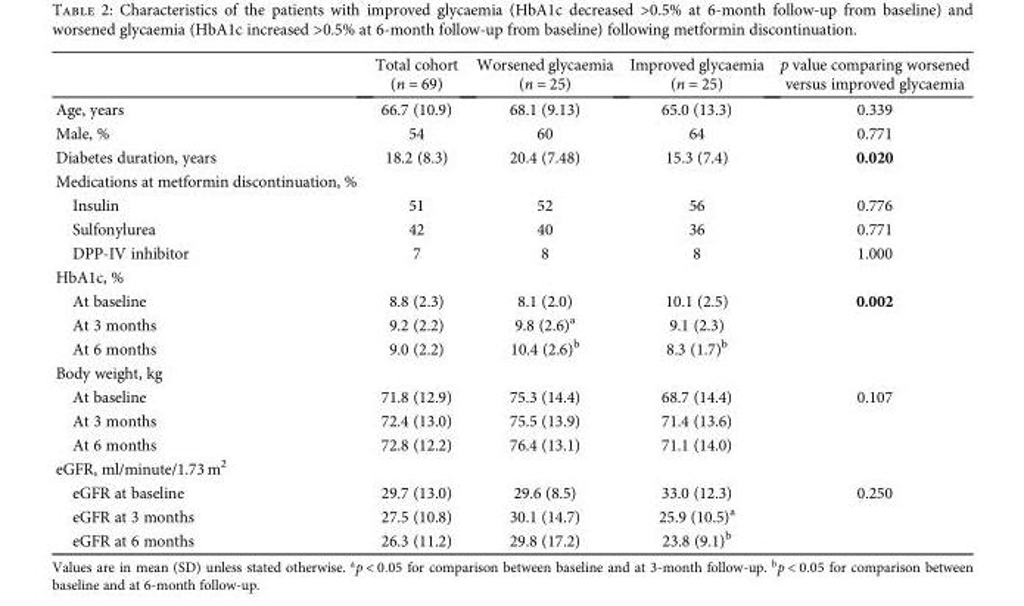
<table><thead><tr><td></td><td>Total cohort (n = 69)</td><td>Worsened glycaemia (n = 25)</td><td>Improved glycaemia (n = 25)</td><td>p value comparing worsened versus improved glycaemia</td></tr></thead><tbody><tr><td>Age, years</td><td>66.7 (10.9)</td><td>68.1 (9.13)</td><td>65.0 (13.3)</td><td>0.339</td></tr><tr><td>Male, %</td><td>54</td><td>60</td><td>64</td><td>0.771</td></tr><tr><td>Diabetes duration, years</td><td>18.2 (8.3)</td><td>20.4 (7.48)</td><td>15.3 (7.4)</td><td>0.020</td></tr><tr><td colspan="5">Medications at metformin discontinuation, %</td></tr><tr><td>Insulin</td><td>51</td><td>52</td><td>56</td><td>0.776</td></tr><tr><td>Sulfonylurea</td><td>42</td><td>40</td><td>36</td><td>0.771</td></tr><tr><td>DPP-IV inhibitor</td><td>7</td><td>8</td><td>8</td><td>1.000</td></tr><tr><td colspan="5">HbA1c, %</td></tr><tr><td>At baseline</td><td>8.8 (2.3)</td><td>8.1 (2.0)</td><td>10.1 (2.5)</td><td>0.002</td></tr><tr><td>At 3 months</td><td>9.2 (2.2)</td><td>9.8 (2.6)<sup>a</sup></td><td>9.1 (2.3)</td><td></td></tr><tr><td>At 6 months</td><td>9.0 (2.2)</td><td>10.4 (2.6)<sup>b</sup></td><td>8.3 (1.7)<sup>b</sup></td><td></td></tr><tr><td colspan="5">Body weight, kg</td></tr><tr><td>At baseline</td><td>71.8 (12.9)</td><td>75.3 (14.4)</td><td>68.7 (14.4)</td><td>0.107</td></tr><tr><td>At 3 months</td><td>72.4 (13.0)</td><td>75.5 (13.9)</td><td>71.4 (13.6)</td><td></td></tr><tr><td>At 6 months</td><td>72.8 (12.2)</td><td>76.4 (13.1)</td><td>71.1 (14.0)</td><td></td></tr><tr><td colspan="5">eGFR, ml/minute/1.73 m<sup>2</sup></td></tr><tr><td>eGFR at baseline</td><td>29.7 (13.0)</td><td>29.6 (8.5)</td><td>33.0 (12.3)</td><td>0.250</td></tr><tr><td>eGFR at 3 months</td><td>27.5 (10.8)</td><td>30.1 (14.7)</td><td>25.9 (10.5)<sup>a</sup></td><td></td></tr><tr><td>eGFR at 6 months</td><td>26.3 (11.2)</td><td>29.8 (17.2)</td><td>23.8 (9.1)<sup>b</sup></td><td></td></tr></tbody></table>